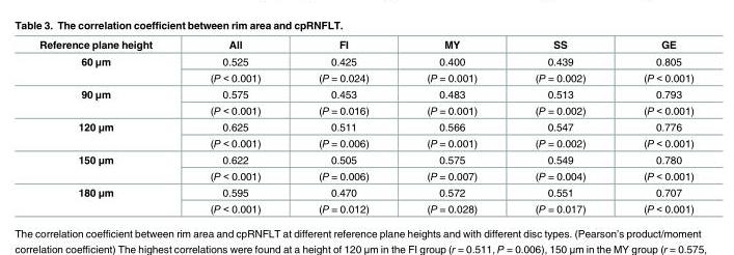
<table><thead><tr><td>Reference plane height</td><td>All</td><td>FI</td><td>MY</td><td>SS</td><td>GE</td></tr></thead><tbody><tr><td rowspan="2">60 μm</td><td>0.525</td><td>0.425</td><td>0.400</td><td>0.439</td><td>0.805</td></tr><tr><td>(P &lt; 0.001)</td><td>(P = 0.024)</td><td>(P = 0.001)</td><td>(P = 0.002)</td><td>(P &lt; 0.001)</td></tr><tr><td rowspan="2">90 μm</td><td>0.575</td><td>0.453</td><td>0.483</td><td>0.513</td><td>0.793</td></tr><tr><td>(P &lt; 0.001)</td><td>(P = 0.016)</td><td>(P = 0.001)</td><td>(P = 0.002)</td><td>(P &lt; 0.001)</td></tr><tr><td rowspan="2">120 μm</td><td>0.625</td><td>0.511</td><td>0.566</td><td>0.547</td><td>0.776</td></tr><tr><td>(P &lt; 0.001)</td><td>(P = 0.006)</td><td>(P = 0.001)</td><td>(P = 0.002)</td><td>(P &lt; 0.001)</td></tr><tr><td rowspan="2">150 μm</td><td>0.622</td><td>0.505</td><td>0.575</td><td>0.549</td><td>0.780</td></tr><tr><td>(P &lt; 0.001)</td><td>(P = 0.006)</td><td>(P = 0.007)</td><td>(P = 0.004)</td><td>(P &lt; 0.001)</td></tr><tr><td rowspan="2">180 μm</td><td>0.595</td><td>0.470</td><td>0.572</td><td>0.551</td><td>0.707</td></tr><tr><td>(P &lt; 0.001)</td><td>(P = 0.012)</td><td>(P = 0.028)</td><td>(P = 0.017)</td><td>(P &lt; 0.001)</td></tr></tbody></table>